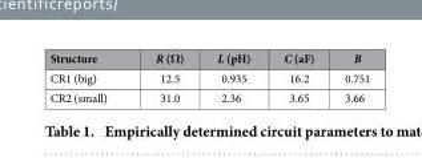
<table><thead><tr><td>Structure</td><td>R (Ω)</td><td>L (pH)</td><td>C (aF)</td><td>B</td></tr></thead><tbody><tr><td>CR1 (big)</td><td>12.5</td><td>0.935</td><td>16.2</td><td>0.751</td></tr><tr><td>CR2 (small)</td><td>31.0</td><td>2.36</td><td>3.65</td><td>3.66</td></tr></tbody></table>